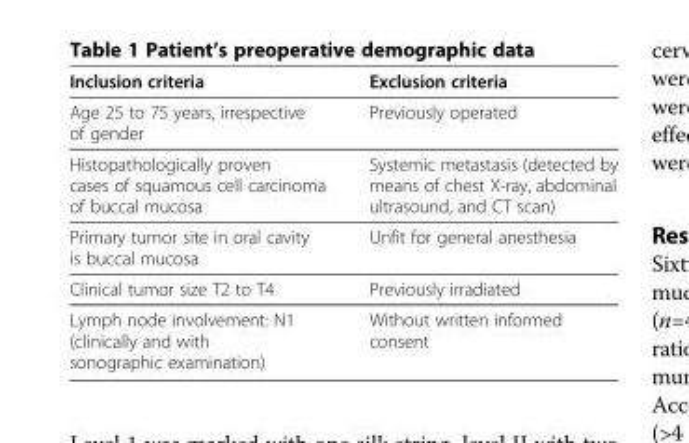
<table><thead><tr><td>Inclusion criteria</td><td>Exclusion criteria</td></tr></thead><tbody><tr><td>Age 25 to 75 years, irrespective of gender</td><td>Previously operated</td></tr><tr><td>Histopathologically proven cases of squamous cell carcinoma of buccal mucosa</td><td>Systemic metastasis (detected by means of chest X-ray, abdominal ultrasound, and CT scan)</td></tr><tr><td>Primary tumor site in oral cavity is buccal mucosa</td><td>Unfit for general anesthesia</td></tr><tr><td>Clinical tumor size T2 to T4</td><td>Previously irradiated</td></tr><tr><td>Lymph node involvement: N1 (clinically and with sonographic examination)</td><td>Without written informed consent</td></tr></tbody></table>